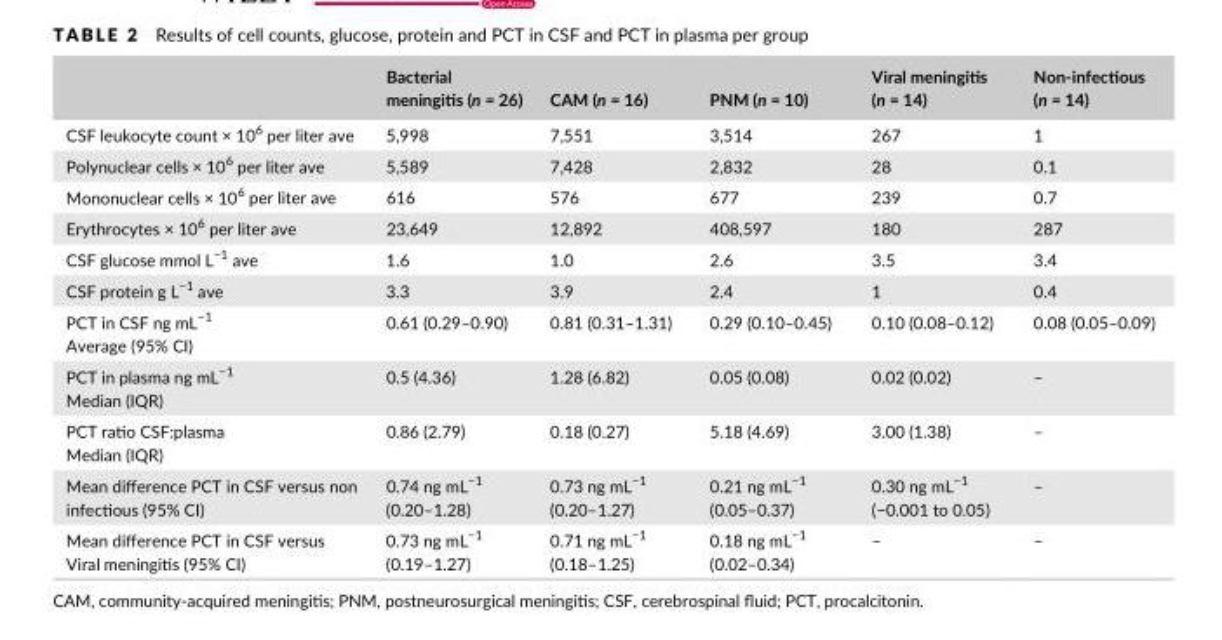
<table><thead><tr><td></td><td>Bacterial meningitis (n = 26)</td><td>CAM (n = 16)</td><td>PNM (n = 10)</td><td>Viral meningitis (n = 14)</td><td>Non- infectious (n = 14)</td></tr></thead><tbody><tr><td>CSF leukocyte count × 10<sup>6</sup> per liter ave</td><td>5,998</td><td>7,551</td><td>3,514</td><td>267</td><td>1</td></tr><tr><td>Polynuclear cells × 10<sup>6</sup> per liter ave</td><td>5,589</td><td>7,428</td><td>2,832</td><td>28</td><td>0.1</td></tr><tr><td>Mononuclear cells × 10<sup>6</sup> per liter ave</td><td>616</td><td>576</td><td>677</td><td>239</td><td>0.7</td></tr><tr><td>Erythrocytes × 10<sup>6</sup> per liter ave</td><td>23,649</td><td>12,892</td><td>408,597</td><td>180</td><td>287</td></tr><tr><td>CSF glucose mmol L<sup>−1</sup> ave</td><td>1.6</td><td>1.0</td><td>2.6</td><td>3.5</td><td>3.4</td></tr><tr><td>CSF protein g L<sup>−1</sup> ave</td><td>3.3</td><td>3.9</td><td>2.4</td><td>1</td><td>0.4</td></tr><tr><td>PCT in CSF ng mL<sup>−1</sup> Average (95% CI)</td><td>0.61 (0.29–0.90)</td><td>0.81 (0.31–1.31)</td><td>0.29 (0.10–0.45)</td><td>0.10 (0.08–0.12)</td><td>0.08 (0.05–0.09)</td></tr><tr><td>PCT in plasma ng mL<sup>−1</sup> Median (IQR)</td><td>0.5 (4.36)</td><td>1.28 (6.82)</td><td>0.05 (0.08)</td><td>0.02 (0.02)</td><td>–</td></tr><tr><td>PCT ratio CSF:plasma Median (IQR)</td><td>0.86 (2.79)</td><td>0.18 (0.27)</td><td>5.18 (4.69)</td><td>3.00 (1.38)</td><td>–</td></tr><tr><td>Mean difference PCT in CSF versus non infectious (95% CI)</td><td>0.74 ng mL<sup>−1</sup> (0.20–1.28)</td><td>0.73 ng mL<sup>−1</sup> (0.20–1.27)</td><td>0.21 ng mL<sup>−1</sup> (0.05–0.37)</td><td>0.30 ng mL<sup>−1</sup> (−0.001 to 0.05)</td><td>–</td></tr><tr><td>Mean difference PCT in CSF versus Viral meningitis (95% CI)</td><td>0.73 ng mL<sup>−1</sup> (0.19–1.27)</td><td>0.71 ng mL<sup>−1</sup> (0.18–1.25)</td><td>0.18 ng mL<sup>−1</sup> (0.02–0.34)</td><td>–</td><td>–</td></tr></tbody></table>